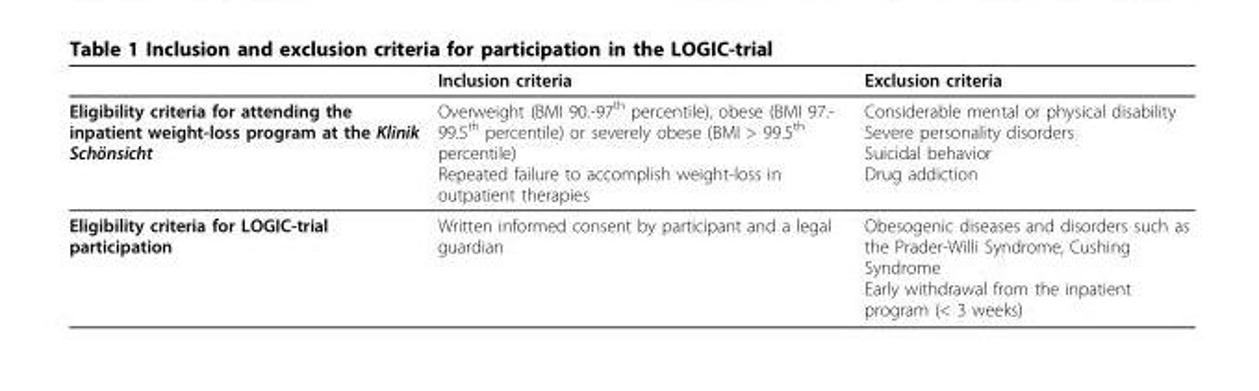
<table><thead><tr><td></td><td>Inclusion criteria</td><td>Exclusion criteria</td></tr></thead><tbody><tr><td>Eligibility criteria for attending the inpatient weight-loss program at the Klinik Schönsicht</td><td>Overweight (BMI 90.-97<sup>th</sup> percentile), obese (BMI 97.- 99.5<sup>th</sup> percentile) or severely obese (BMI &gt; 99.5<sup>th</sup> percentile) Repeated failure to accomplish weight-loss in outpatient therapies</td><td>Considerable mental or physical disability Severe personality disorders Suicidal behavior Drug addiction</td></tr><tr><td>Eligibility criteria for LOGIC-trial participation</td><td>Written informed consent by participant and a legal guardian</td><td>Obesogenic diseases and disorders such as the Prader-Willi Syndrome, Cushing Syndrome Early withdrawal from the inpatient program (&lt; 3 weeks)</td></tr></tbody></table>